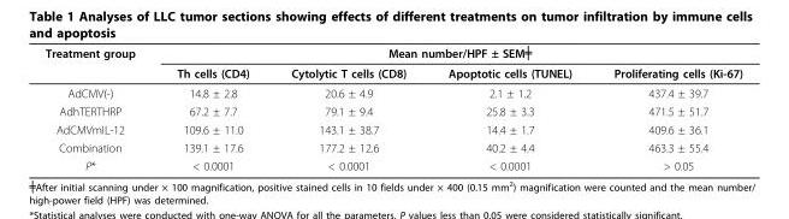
<table><thead><tr><td rowspan="2">Treatment group</td><td colspan="4">Mean number/HPF ± SEM╪</td></tr><tr><td>Th cells (CD4)</td><td>Cytolytic T cells (CD8)</td><td>Apoptotic cells (TUNEL)</td><td>Proliferating cells (Ki-67)</td></tr></thead><tbody><tr><td>AdCMV(-)</td><td>14.8 ± 2.8</td><td>20.6 ± 4.9</td><td>2.1 ± 1.2</td><td>437.4 ± 39.7</td></tr><tr><td>AdhTERTHRP</td><td>67.2 ± 7.7</td><td>79.1 ± 9.4</td><td>25.8 ± 3.3</td><td>471.5 ± 51.7</td></tr><tr><td>AdCMVmIL-12</td><td>109.6 ± 11.0</td><td>143.1 ± 38.7</td><td>14.4 ± 1.7</td><td>409.6 ± 36.1</td></tr><tr><td>Combination</td><td>139.1 ± 17.6</td><td>177.2 ± 12.6</td><td>40.2 ± 4.4</td><td>463.3 ± 55.4</td></tr><tr><td>P*</td><td>&lt; 0.0001</td><td>&lt; 0.0001</td><td>&lt; 0.0001</td><td>&gt; 0.05</td></tr></tbody></table>